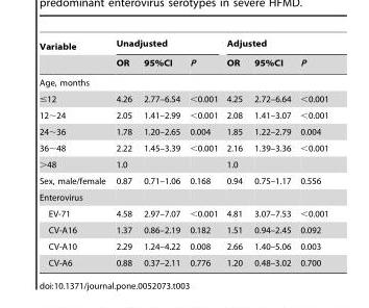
<table><thead><tr><td rowspan="2">Variable</td><td colspan="3">Unadjusted</td><td colspan="3">Adjusted</td></tr><tr><td>OR</td><td>95%CI</td><td>P</td><td>OR</td><td>95%CI</td><td>P</td></tr></thead><tbody><tr><td colspan="7">Age, months</td></tr><tr><td>≤12</td><td>4.26</td><td>2.77–6.54</td><td>&lt;0.001</td><td>4.25</td><td>2.72–6.64</td><td>&lt;0.001</td></tr><tr><td>12∼24</td><td>2.05</td><td>1.41–2.99</td><td>&lt;0.001</td><td>2.08</td><td>1.41–3.07</td><td>&lt;0.001</td></tr><tr><td>24∼36</td><td>1.78</td><td>1.20–2.65</td><td>0.004</td><td>1.85</td><td>1.22–2.79</td><td>0.004</td></tr><tr><td>36∼48</td><td>2.22</td><td>1.45–3.39</td><td>&lt;0.001</td><td>2.16</td><td>1.39–3.36</td><td>&lt;0.001</td></tr><tr><td>&gt;48</td><td>1.0</td><td></td><td></td><td>1.0</td><td></td><td></td></tr><tr><td>Sex, male/female</td><td>0.87</td><td>0.71–1.06</td><td>0.168</td><td>0.94</td><td>0.75–1.17</td><td>0.556</td></tr><tr><td colspan="7">Enterovirus</td></tr><tr><td>EV-71</td><td>4.58</td><td>2.97–7.07</td><td>&lt;0.001</td><td>4.81</td><td>3.07–7.53</td><td>&lt;0.001</td></tr><tr><td>CV-A16</td><td>1.37</td><td>0.86–2.19</td><td>0.182</td><td>1.51</td><td>0.94–2.45</td><td>0.092</td></tr><tr><td>CV-A10</td><td>2.29</td><td>1.24–4.22</td><td>0.008</td><td>2.66</td><td>1.40–5.06</td><td>0.003</td></tr><tr><td>CV-A6</td><td>0.88</td><td>0.37–2.11</td><td>0.776</td><td>1.20</td><td>0.48–3.02</td><td>0.700</td></tr></tbody></table>